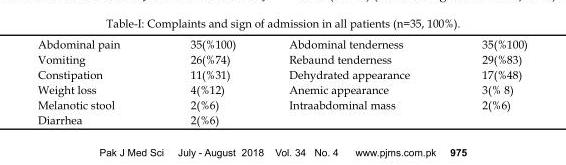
<table><tbody><tr><td>Abdominal pain</td><td>35(%100)</td><td>Abdominal tenderness</td><td>35(%100)</td></tr><tr><td>Vomiting</td><td>26(%74)</td><td>Rebaund tenderness</td><td>29(%83)</td></tr><tr><td>Constipation</td><td>11(%31)</td><td>Dehydrated appearance</td><td>17(%48)</td></tr><tr><td>Weight loss</td><td>4(%12)</td><td>Anemic appearance</td><td>3(% 8)</td></tr><tr><td>Melanotic stool</td><td>2(%6)</td><td>Intraabdominal mass</td><td>2(%6)</td></tr><tr><td>Diarrhea</td><td>2(%6)</td><td></td><td></td></tr></tbody></table>